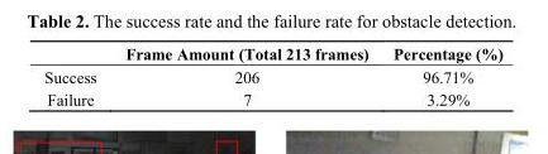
<table><thead><tr><td></td><td>Frame Amount (Total 213 frames)</td><td>Percentage (%)</td></tr></thead><tbody><tr><td>Success</td><td>206</td><td>96.71%</td></tr><tr><td>Failure</td><td>7</td><td>3.29%</td></tr></tbody></table>